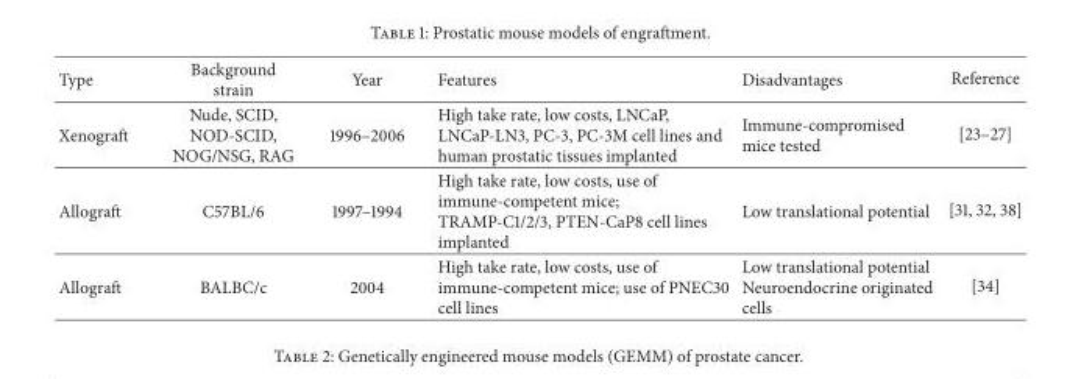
<table><thead><tr><td>Type</td><td>Background strain</td><td>Year</td><td>Features</td><td>Disadvantages</td><td>Reference</td></tr></thead><tbody><tr><td>Xenograft</td><td>Nude, SCID, NOD-SCID, NOG/NSG, RAG</td><td>1996–2006</td><td>High take rate, low costs, LNCaP, LNCaP-LN3, PC-3, PC-3M cell lines and human prostatic tissues implanted</td><td>Immune-compromised mice tested</td><td>[23–27]</td></tr><tr><td>Allograft</td><td>C57BL/6</td><td>1997–1994</td><td>High take rate, low costs, use of immune-competent mice; TRAMP-C1/2/3, PTEN-CaP8 cell lines implanted</td><td>Low translational potential</td><td>[31, 32, 38]</td></tr><tr><td>Allograft</td><td>BALBC/c</td><td>2004</td><td>High take rate, low costs, use of immune-competent mice; use of PNEC30 cell lines</td><td>Low translational potential Neuroendocrine originated cells</td><td>[34]</td></tr></tbody></table>